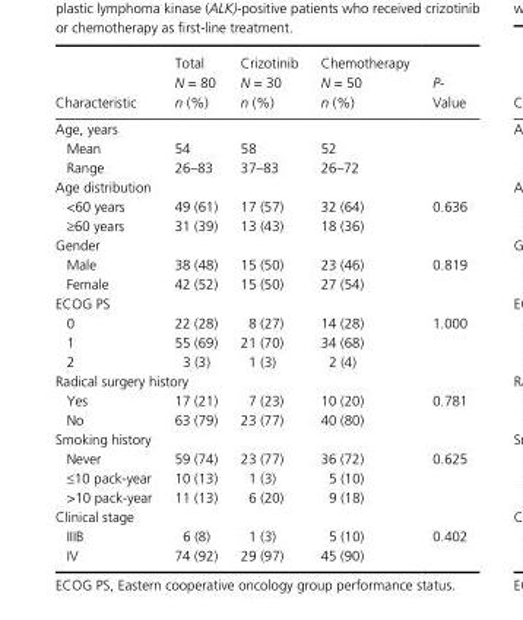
<table><thead><tr><td>Characteristic</td><td>Total N = 80 n (%)</td><td>Crizotinib N = 30 n (%)</td><td>Chemotherapy N = 50 n (%)</td><td>P- Value</td></tr></thead><tbody><tr><td colspan="5">Age, years</td></tr><tr><td>Mean</td><td>54</td><td>58</td><td>52</td><td rowspan="2"></td></tr><tr><td>Range</td><td>26–83</td><td>37–83</td><td>26–72</td></tr><tr><td colspan="5">Age distribution</td></tr><tr><td>&lt;60 years</td><td>49 (61)</td><td>17 (57)</td><td>32 (64)</td><td rowspan="2">0.636</td></tr><tr><td>≥60 years</td><td>31 (39)</td><td>13 (43)</td><td>18 (36)</td></tr><tr><td colspan="5">Gender</td></tr><tr><td>Male</td><td>38 (48)</td><td>15 (50)</td><td>23 (46)</td><td rowspan="2">0.819</td></tr><tr><td>Female</td><td>42 (52)</td><td>15 (50)</td><td>27 (54)</td></tr><tr><td colspan="5">ECOG PS</td></tr><tr><td>0</td><td>22 (28)</td><td>8 (27)</td><td>14 (28)</td><td rowspan="3">1.000</td></tr><tr><td>1</td><td>55 (69)</td><td>21 (70)</td><td>34 (68)</td></tr><tr><td>2</td><td>3 (3)</td><td>1 (3)</td><td>2 (4)</td></tr><tr><td colspan="5">Radical surgery history</td></tr><tr><td>Yes</td><td>17 (21)</td><td>7 (23)</td><td>10 (20)</td><td rowspan="2">0.781</td></tr><tr><td>No</td><td>63 (79)</td><td>23 (77)</td><td>40 (80)</td></tr><tr><td colspan="5">Smoking history</td></tr><tr><td>Never</td><td>59 (74)</td><td>23 (77)</td><td>36 (72)</td><td rowspan="3">0.625</td></tr><tr><td>≤10 pack- year</td><td>10 (13)</td><td>1 (3)</td><td>5 (10)</td></tr><tr><td>&gt;10 pack- year</td><td>11 (13)</td><td>6 (20)</td><td>9 (18)</td></tr><tr><td colspan="5">Clinical stage</td></tr><tr><td>IIIB</td><td>6 (8)</td><td>1 (3)</td><td>5 (10)</td><td rowspan="2">0.402</td></tr><tr><td>IV</td><td>74 (92)</td><td>29 (97)</td><td>45 (90)</td></tr></tbody></table>